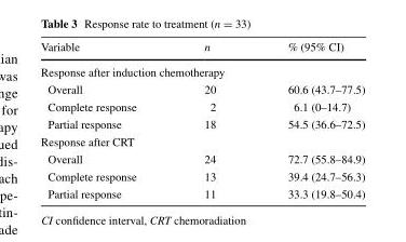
<table><thead><tr><td>Variable</td><td>n</td><td>% (95% CI)</td></tr></thead><tbody><tr><td colspan="3">Response after induction chemotherapy</td></tr><tr><td>Overall</td><td>20</td><td>60.6 (43.7–77.5)</td></tr><tr><td>Complete response</td><td>2</td><td>6.1 (0–14.7)</td></tr><tr><td>Partial response</td><td>18</td><td>54.5 (36.6–72.5)</td></tr><tr><td colspan="3">Response after CRT</td></tr><tr><td>Overall</td><td>24</td><td>72.7 (55.8–84.9)</td></tr><tr><td>Complete response</td><td>13</td><td>39.4 (24.7–56.3)</td></tr><tr><td>Partial response</td><td>11</td><td>33.3 (19.8–50.4)</td></tr></tbody></table>